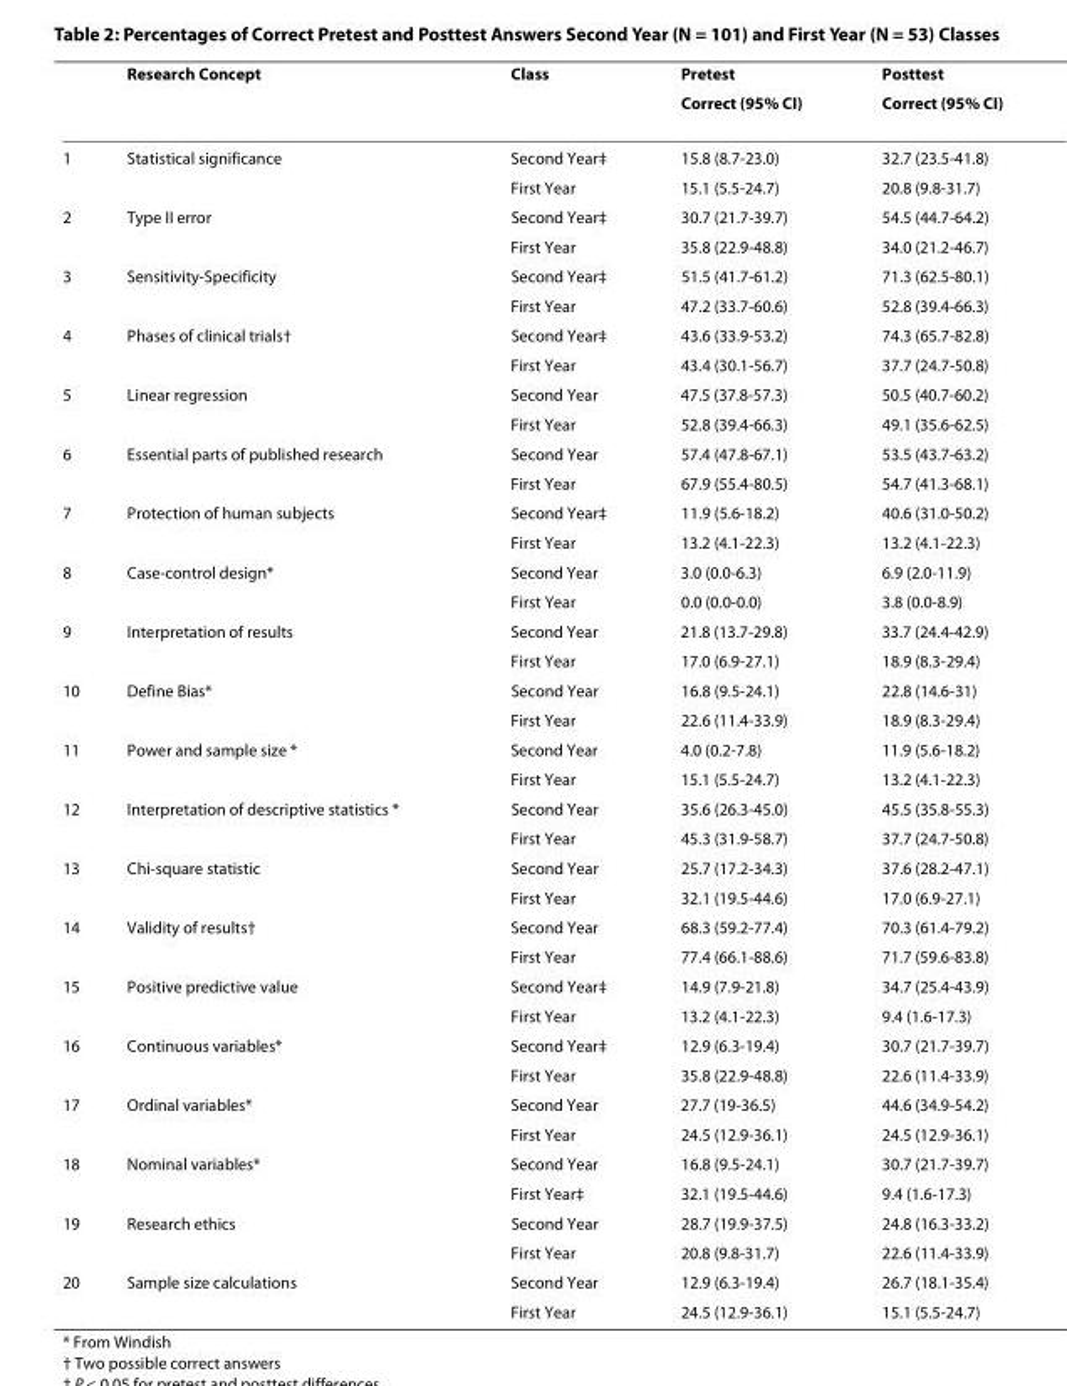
<table><thead><tr><td rowspan="2"></td><td rowspan="2">Research Concept</td><td rowspan="2">Class</td><td rowspan="2">Pretest Correct (95% CI)</td><td rowspan="2">Posttest Correct (95% CI)</td></tr><tr></tr></thead><tbody><tr><td rowspan="2">1</td><td>Statistical significance</td><td>Second Year‡</td><td>15.8 (8.7-23.0)</td><td>32.7 (23.5-41.8)</td></tr><tr><td></td><td>First Year</td><td>15.1 (5.5-24.7)</td><td>20.8 (9.8-31.7)</td></tr><tr><td rowspan="2">2</td><td>Type II error</td><td>Second Year‡</td><td>30.7 (21.7-39.7)</td><td>54.5 (44.7-64.2)</td></tr><tr><td></td><td>First Year</td><td>35.8 (22.9-48.8)</td><td>34.0 (21.2-46.7)</td></tr><tr><td rowspan="2">3</td><td>Sensitivity-Specificity</td><td>Second Year‡</td><td>51.5 (41.7-61.2)</td><td>71.3 (62.5-80.1)</td></tr><tr><td></td><td>First Year</td><td>47.2 (33.7-60.6)</td><td>52.8 (39.4-66.3)</td></tr><tr><td rowspan="2">4</td><td>Phases of clinical trials†</td><td>Second Year‡</td><td>43.6 (33.9-53.2)</td><td>74.3 (65.7-82.8)</td></tr><tr><td></td><td>First Year</td><td>43.4 (30.1-56.7)</td><td>37.7 (24.7-50.8)</td></tr><tr><td rowspan="2">5</td><td>Linear regression</td><td>Second Year</td><td>47.5 (37.8-57.3)</td><td>50.5 (40.7-60.2)</td></tr><tr><td></td><td>First Year</td><td>52.8 (39.4-66.3)</td><td>49.1 (35.6-62.5)</td></tr><tr><td rowspan="2">6</td><td>Essential parts of published research</td><td>Second Year</td><td>57.4 (47.8-67.1)</td><td>53.5 (43.7-63.2)</td></tr><tr><td></td><td>First Year</td><td>67.9 (55.4-80.5)</td><td>54.7 (41.3-68.1)</td></tr><tr><td rowspan="2">7</td><td>Protection of human subjects</td><td>Second Year‡</td><td>11.9 (5.6-18.2)</td><td>40.6 (31.0-50.2)</td></tr><tr><td></td><td>First Year</td><td>13.2 (4.1-22.3)</td><td>13.2 (4.1-22.3)</td></tr><tr><td rowspan="2">8</td><td>Case-control design*</td><td>Second Year</td><td>3.0 (0.0-6.3)</td><td>6.9 (2.0-11.9)</td></tr><tr><td></td><td>First Year</td><td>0.0 (0.0-0.0)</td><td>3.8 (0.0-8.9)</td></tr><tr><td rowspan="2">9</td><td>Interpretation of results</td><td>Second Year</td><td>21.8 (13.7-29.8)</td><td>33.7 (24.4-42.9)</td></tr><tr><td></td><td>First Year</td><td>17.0 (6.9-27.1)</td><td>18.9 (8.3-29.4)</td></tr><tr><td rowspan="2">10</td><td>Define Bias*</td><td>Second Year</td><td>16.8 (9.5-24.1)</td><td>22.8 (14.6-31)</td></tr><tr><td></td><td>First Year</td><td>22.6 (11.4-33.9)</td><td>18.9 (8.3-29.4)</td></tr><tr><td rowspan="2">11</td><td>Power and sample size *</td><td>Second Year</td><td>4.0 (0.2-7.8)</td><td>11.9 (5.6-18.2)</td></tr><tr><td></td><td>First Year</td><td>15.1 (5.5-24.7)</td><td>13.2 (4.1-22.3)</td></tr><tr><td rowspan="2">12</td><td>Interpretation of descriptive statistics *</td><td>Second Year</td><td>35.6 (26.3-45.0)</td><td>45.5 (35.8-55.3)</td></tr><tr><td></td><td>First Year</td><td>45.3 (31.9-58.7)</td><td>37.7 (24.7-50.8)</td></tr><tr><td rowspan="2">13</td><td>Chi-square statistic</td><td>Second Year</td><td>25.7 (17.2-34.3)</td><td>37.6 (28.2-47.1)</td></tr><tr><td></td><td>First Year</td><td>32.1 (19.5-44.6)</td><td>17.0 (6.9-27.1)</td></tr><tr><td rowspan="2">14</td><td>Validity of results†</td><td>Second Year</td><td>68.3 (59.2-77.4)</td><td>70.3 (61.4-79.2)</td></tr><tr><td></td><td>First Year</td><td>77.4 (66.1-88.6)</td><td>71.7 (59.6-83.8)</td></tr><tr><td rowspan="2">15</td><td>Positive predictive value</td><td>Second Year‡</td><td>14.9 (7.9-21.8)</td><td>34.7 (25.4-43.9)</td></tr><tr><td></td><td>First Year</td><td>13.2 (4.1-22.3)</td><td>9.4 (1.6-17.3)</td></tr><tr><td rowspan="2">16</td><td>Continuous variables*</td><td>Second Year‡</td><td>12.9 (6.3-19.4)</td><td>30.7 (21.7-39.7)</td></tr><tr><td></td><td>First Year</td><td>35.8 (22.9-48.8)</td><td>22.6 (11.4-33.9)</td></tr><tr><td rowspan="2">17</td><td>Ordinal variables*</td><td>Second Year</td><td>27.7 (19-36.5)</td><td>44.6 (34.9-54.2)</td></tr><tr><td></td><td>First Year</td><td>24.5 (12.9-36.1)</td><td>24.5 (12.9-36.1)</td></tr><tr><td rowspan="2">18</td><td>Nominal variables*</td><td>Second Year</td><td>16.8 (9.5-24.1)</td><td>30.7 (21.7-39.7)</td></tr><tr><td></td><td>First Year‡</td><td>32.1 (19.5-44.6)</td><td>9.4 (1.6-17.3)</td></tr><tr><td rowspan="2">19</td><td>Research ethics</td><td>Second Year</td><td>28.7 (19.9-37.5)</td><td>24.8 (16.3-33.2)</td></tr><tr><td></td><td>First Year</td><td>20.8 (9.8-31.7)</td><td>22.6 (11.4-33.9)</td></tr><tr><td rowspan="2">20</td><td>Sample size calculations</td><td>Second Year</td><td>12.9 (6.3-19.4)</td><td>26.7 (18.1-35.4)</td></tr><tr><td></td><td>First Year</td><td>24.5 (12.9-36.1)</td><td>15.1 (5.5-24.7)</td></tr></tbody></table>